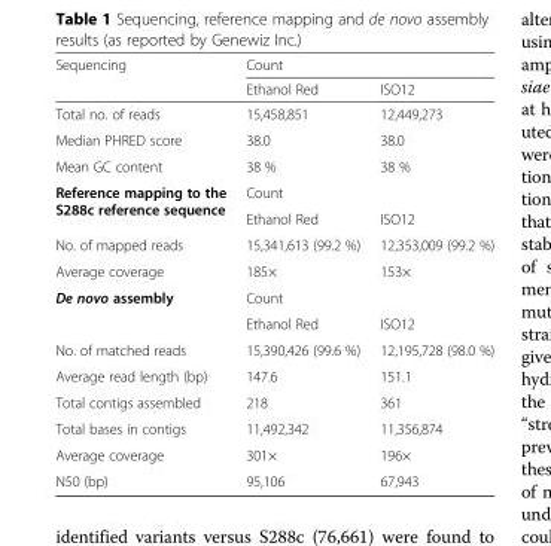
<table><thead><tr><td rowspan="2">Sequencing</td><td colspan="2">Count</td></tr><tr><td>Ethanol Red</td><td>ISO12</td></tr></thead><tbody><tr><td>Total no. of reads</td><td>15,458,851</td><td>12,449,273</td></tr><tr><td>Median PHRED score</td><td>38.0</td><td>38.0</td></tr><tr><td>Mean GC content</td><td>38 %</td><td>38 %</td></tr><tr><td rowspan="2">Reference mapping to the S288c reference sequence</td><td colspan="2">Count</td></tr><tr><td>Ethanol Red</td><td>ISO12</td></tr><tr><td>No. of mapped reads</td><td>15,341,613 (99.2 %)</td><td>12,353,009 (99.2 %)</td></tr><tr><td>Average coverage</td><td>185×</td><td>153×</td></tr><tr><td rowspan="2">De novo assembly</td><td colspan="2">Count</td></tr><tr><td>Ethanol Red</td><td>ISO12</td></tr><tr><td>No. of matched reads</td><td>15,390,426 (99.6 %)</td><td>12,195,728 (98.0 %)</td></tr><tr><td>Average read length (bp)</td><td>147.6</td><td>151.1</td></tr><tr><td>Total contigs assembled</td><td>218</td><td>361</td></tr><tr><td>Total bases in contigs</td><td>11,492,342</td><td>11,356,874</td></tr><tr><td>Average coverage</td><td>301×</td><td>196×</td></tr><tr><td>N50 (bp)</td><td>95,106</td><td>67,943</td></tr></tbody></table>